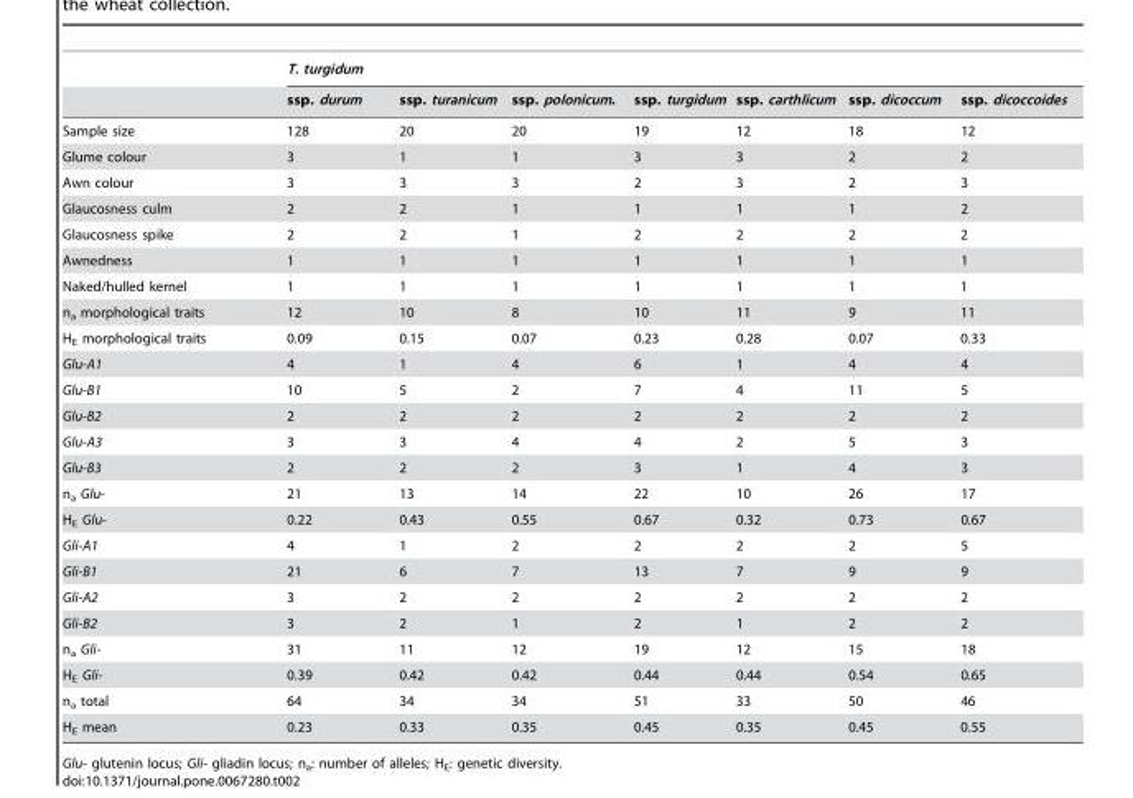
<table><thead><tr><td rowspan="2"></td><td colspan="7">T. turgidum</td></tr><tr><td>ssp. durum</td><td>ssp. turanicum</td><td>ssp. polonicum.</td><td>ssp. turgidum</td><td>ssp. carthlicum</td><td>ssp. dicoccum</td><td>ssp. dicoccoides</td></tr></thead><tbody><tr><td>Sample size</td><td>128</td><td>20</td><td>20</td><td>19</td><td>12</td><td>18</td><td>12</td></tr><tr><td>Glume colour</td><td>3</td><td>1</td><td>1</td><td>3</td><td>3</td><td>2</td><td>2</td></tr><tr><td>Awn colour</td><td>3</td><td>3</td><td>3</td><td>2</td><td>3</td><td>2</td><td>3</td></tr><tr><td>Glaucosness culm</td><td>2</td><td>2</td><td>1</td><td>1</td><td>1</td><td>1</td><td>2</td></tr><tr><td>Glaucosness spike</td><td>2</td><td>2</td><td>1</td><td>2</td><td>2</td><td>2</td><td>2</td></tr><tr><td>Awnedness</td><td>1</td><td>1</td><td>1</td><td>1</td><td>1</td><td>1</td><td>1</td></tr><tr><td>Naked/hulled kernel</td><td>1</td><td>1</td><td>1</td><td>1</td><td>1</td><td>1</td><td>1</td></tr><tr><td>n<sub>a</sub> morphological traits</td><td>12</td><td>10</td><td>8</td><td>10</td><td>11</td><td>9</td><td>11</td></tr><tr><td>H<sub>E</sub> morphological traits</td><td>0.09</td><td>0.15</td><td>0.07</td><td>0.23</td><td>0.28</td><td>0.07</td><td>0.33</td></tr><tr><td>Glu-A1</td><td>4</td><td>1</td><td>4</td><td>6</td><td>1</td><td>4</td><td>4</td></tr><tr><td>Glu-B1</td><td>10</td><td>5</td><td>2</td><td>7</td><td>4</td><td>11</td><td>5</td></tr><tr><td>Glu-B2</td><td>2</td><td>2</td><td>2</td><td>2</td><td>2</td><td>2</td><td>2</td></tr><tr><td>Glu-A3</td><td>3</td><td>3</td><td>4</td><td>4</td><td>2</td><td>5</td><td>3</td></tr><tr><td>Glu-B3</td><td>2</td><td>2</td><td>2</td><td>3</td><td>1</td><td>4</td><td>3</td></tr><tr><td>n<sub>a</sub> Glu-</td><td>21</td><td>13</td><td>14</td><td>22</td><td>10</td><td>26</td><td>17</td></tr><tr><td>H<sub>E</sub> Glu-</td><td>0.22</td><td>0.43</td><td>0.55</td><td>0.67</td><td>0.32</td><td>0.73</td><td>0.67</td></tr><tr><td>Gli-A1</td><td>4</td><td>1</td><td>2</td><td>2</td><td>2</td><td>2</td><td>5</td></tr><tr><td>Gli-B1</td><td>21</td><td>6</td><td>7</td><td>13</td><td>7</td><td>9</td><td>9</td></tr><tr><td>Gli-A2</td><td>3</td><td>2</td><td>2</td><td>2</td><td>2</td><td>2</td><td>2</td></tr><tr><td>Gli-B2</td><td>3</td><td>2</td><td>1</td><td>2</td><td>1</td><td>2</td><td>2</td></tr><tr><td>n<sub>a</sub> Gli-</td><td>31</td><td>11</td><td>12</td><td>19</td><td>12</td><td>15</td><td>18</td></tr><tr><td>H<sub>E</sub> Gli-</td><td>0.39</td><td>0.42</td><td>0.42</td><td>0.44</td><td>0.44</td><td>0.54</td><td>0.65</td></tr><tr><td>n<sub>a</sub> total</td><td>64</td><td>34</td><td>34</td><td>51</td><td>33</td><td>50</td><td>46</td></tr><tr><td>H<sub>E</sub> mean</td><td>0.23</td><td>0.33</td><td>0.35</td><td>0.45</td><td>0.35</td><td>0.45</td><td>0.55</td></tr></tbody></table>